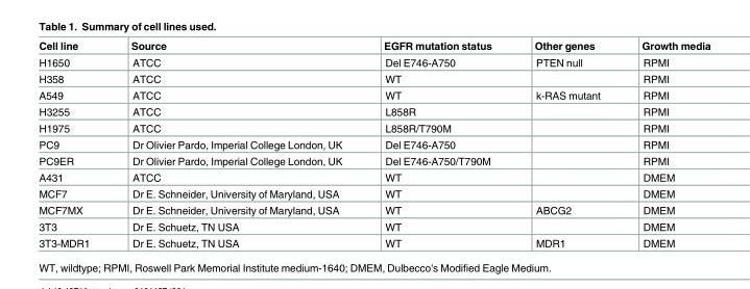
<table><thead><tr><td>Cell line</td><td>Source</td><td>EGFR mutation status</td><td>Other genes</td><td>Growth media</td></tr></thead><tbody><tr><td>H1650</td><td>ATCC</td><td>Del E746-A750</td><td>PTEN null</td><td>RPMI</td></tr><tr><td>H358</td><td>ATCC</td><td>WT</td><td></td><td>RPMI</td></tr><tr><td>A549</td><td>ATCC</td><td>WT</td><td>k-RAS mutant</td><td>RPMI</td></tr><tr><td>H3255</td><td>ATCC</td><td>L858R</td><td></td><td>RPMI</td></tr><tr><td>H1975</td><td>ATCC</td><td>L858R/T790M</td><td></td><td>RPMI</td></tr><tr><td>PC9</td><td>Dr Olivier Pardo, Imperial College London, UK</td><td>Del E746-A750</td><td></td><td>RPMI</td></tr><tr><td>PC9ER</td><td>Dr Olivier Pardo, Imperial College London, UK</td><td>Del E746-A750/T790M</td><td></td><td>RPMI</td></tr><tr><td>A431</td><td>ATCC</td><td>WT</td><td></td><td>DMEM</td></tr><tr><td>MCF7</td><td>Dr E. Schneider, University of Maryland, USA</td><td>WT</td><td></td><td>DMEM</td></tr><tr><td>MCF7MX</td><td>Dr E. Schneider, University of Maryland, USA</td><td>WT</td><td>ABCG2</td><td>DMEM</td></tr><tr><td>3T3</td><td>Dr E. Schuetz, TN USA</td><td>WT</td><td></td><td>DMEM</td></tr><tr><td>3T3-MDR1</td><td>Dr E. Schuetz, TN USA</td><td>WT</td><td>MDR1</td><td>DMEM</td></tr></tbody></table>